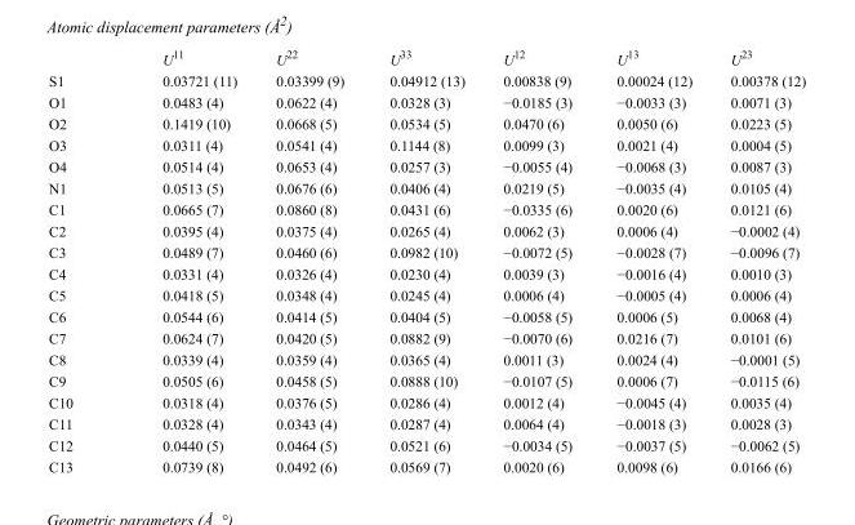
<table><thead><tr><td></td><td>U<sup>11</sup></td><td>U<sup>22</sup></td><td>U<sup>33</sup></td><td>U<sup>12</sup></td><td>U<sup>13</sup></td><td>U<sup>23</sup></td></tr></thead><tbody><tr><td>S1</td><td>0.03721 (11)</td><td>0.03399 (9)</td><td>0.04912 (13)</td><td>0.00838 (9)</td><td>0.00024 (12)</td><td>0.00378 (12)</td></tr><tr><td>O1</td><td>0.0483 (4)</td><td>0.0622 (4)</td><td>0.0328 (3)</td><td>−0.0185 (3)</td><td>−0.0033 (3)</td><td>0.0071 (3)</td></tr><tr><td>O2</td><td>0.1419 (10)</td><td>0.0668 (5)</td><td>0.0534 (5)</td><td>0.0470 (6)</td><td>0.0050 (6)</td><td>0.0223 (5)</td></tr><tr><td>O3</td><td>0.0311 (4)</td><td>0.0541 (4)</td><td>0.1144 (8)</td><td>0.0099 (3)</td><td>0.0021 (4)</td><td>0.0004 (5)</td></tr><tr><td>O4</td><td>0.0514 (4)</td><td>0.0653 (4)</td><td>0.0257 (3)</td><td>−0.0055 (4)</td><td>−0.0068 (3)</td><td>0.0087 (3)</td></tr><tr><td>N1</td><td>0.0513 (5)</td><td>0.0676 (6)</td><td>0.0406 (4)</td><td>0.0219 (5)</td><td>−0.0035 (4)</td><td>0.0105 (4)</td></tr><tr><td>C1</td><td>0.0665 (7)</td><td>0.0860 (8)</td><td>0.0431 (6)</td><td>−0.0335 (6)</td><td>0.0020 (6)</td><td>0.0121 (6)</td></tr><tr><td>C2</td><td>0.0395 (4)</td><td>0.0375 (4)</td><td>0.0265 (4)</td><td>0.0062 (3)</td><td>0.0006 (4)</td><td>−0.0002 (4)</td></tr><tr><td>C3</td><td>0.0489 (7)</td><td>0.0460 (6)</td><td>0.0982 (10)</td><td>−0.0072 (5)</td><td>−0.0028 (7)</td><td>−0.0096 (7)</td></tr><tr><td>C4</td><td>0.0331 (4)</td><td>0.0326 (4)</td><td>0.0230 (4)</td><td>0.0039 (3)</td><td>−0.0016 (4)</td><td>0.0010 (3)</td></tr><tr><td>C5</td><td>0.0418 (5)</td><td>0.0348 (4)</td><td>0.0245 (4)</td><td>0.0006 (4)</td><td>−0.0005 (4)</td><td>0.0006 (4)</td></tr><tr><td>C6</td><td>0.0544 (6)</td><td>0.0414 (5)</td><td>0.0404 (5)</td><td>−0.0058 (5)</td><td>0.0006 (5)</td><td>0.0068 (4)</td></tr><tr><td>C7</td><td>0.0624 (7)</td><td>0.0420 (5)</td><td>0.0882 (9)</td><td>−0.0070 (6)</td><td>0.0216 (7)</td><td>0.0101 (6)</td></tr><tr><td>C8</td><td>0.0339 (4)</td><td>0.0359 (4)</td><td>0.0365 (4)</td><td>0.0011 (3)</td><td>0.0024 (4)</td><td>−0.0001 (5)</td></tr><tr><td>C9</td><td>0.0505 (6)</td><td>0.0458 (5)</td><td>0.0888 (10)</td><td>−0.0107 (5)</td><td>0.0006 (7)</td><td>−0.0115 (6)</td></tr><tr><td>C10</td><td>0.0318 (4)</td><td>0.0376 (5)</td><td>0.0286 (4)</td><td>0.0012 (4)</td><td>−0.0045 (4)</td><td>0.0035 (4)</td></tr><tr><td>C11</td><td>0.0328 (4)</td><td>0.0343 (4)</td><td>0.0287 (4)</td><td>0.0064 (4)</td><td>−0.0018 (3)</td><td>0.0028 (3)</td></tr><tr><td>C12</td><td>0.0440 (5)</td><td>0.0464 (5)</td><td>0.0521 (6)</td><td>−0.0034 (5)</td><td>−0.0037 (5)</td><td>−0.0062 (5)</td></tr><tr><td>C13</td><td>0.0739 (8)</td><td>0.0492 (6)</td><td>0.0569 (7)</td><td>0.0020 (6)</td><td>0.0098 (6)</td><td>0.0166 (6)</td></tr></tbody></table>